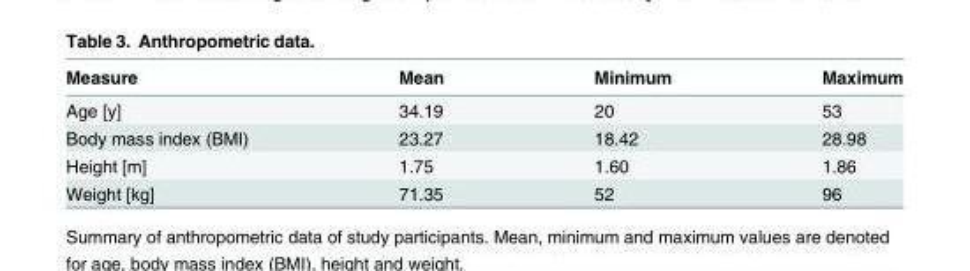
<table><thead><tr><td>Measure</td><td>Mean</td><td>Minimum</td><td>Maximum</td></tr></thead><tbody><tr><td>Age [y]</td><td>34.19</td><td>20</td><td>53</td></tr><tr><td>Body mass index (BMI)</td><td>23.27</td><td>18.42</td><td>28.98</td></tr><tr><td>Height [m]</td><td>1.75</td><td>1.60</td><td>1.86</td></tr><tr><td>Weight [kg]</td><td>71.35</td><td>52</td><td>96</td></tr></tbody></table>